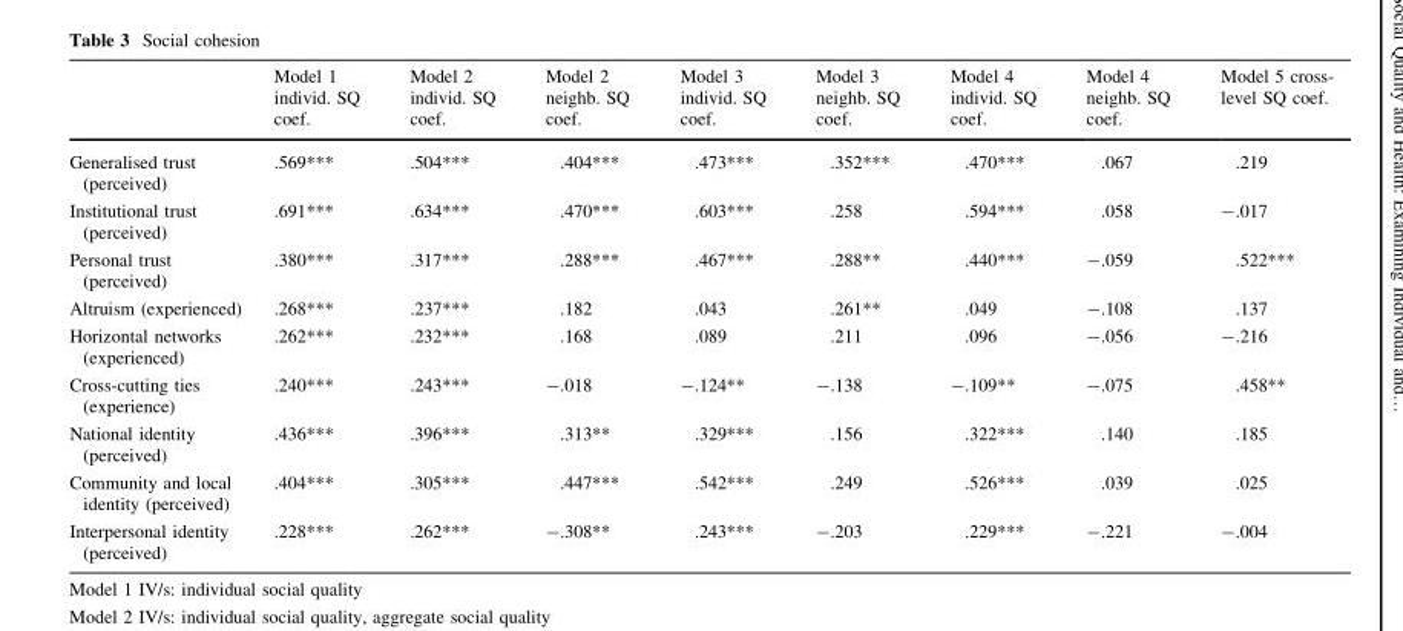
<table><thead><tr><td></td><td>Model 1 individ. SQ coef.</td><td>Model 2 individ. SQ coef.</td><td>Model 2 neighb. SQ coef.</td><td>Model 3 individ. SQ coef.</td><td>Model 3 neighb. SQ coef.</td><td>Model 4 individ. SQ coef.</td><td>Model 4 neighb. SQ coef.</td><td>Model 5 cross- level SQ coef.</td></tr></thead><tbody><tr><td>Generalised trust (perceived)</td><td>.569***</td><td>.504***</td><td>.404***</td><td>.473***</td><td>.352***</td><td>.470***</td><td>.067</td><td>.219</td></tr><tr><td>Institutional trust (perceived)</td><td>.691***</td><td>.634***</td><td>.470***</td><td>.603***</td><td>.258</td><td>.594***</td><td>.058</td><td>-.017</td></tr><tr><td>Personal trust (perceived)</td><td>.380***</td><td>.317***</td><td>.288***</td><td>.467***</td><td>.288**</td><td>.440***</td><td>-.059</td><td>.522***</td></tr><tr><td>Altruism (experienced)</td><td>.268***</td><td>.237***</td><td>.182</td><td>.043</td><td>.261**</td><td>.049</td><td>-.108</td><td>.137</td></tr><tr><td>Horizontal networks (experienced)</td><td>.262***</td><td>.232***</td><td>.168</td><td>.089</td><td>.211</td><td>.096</td><td>-.056</td><td>-.216</td></tr><tr><td>Cross-cutting ties (experience)</td><td>.240***</td><td>.243***</td><td>-.018</td><td>-.124**</td><td>-.138</td><td>-.109**</td><td>-.075</td><td>.458**</td></tr><tr><td>National identity (perceived)</td><td>.436***</td><td>.396***</td><td>.313**</td><td>.329***</td><td>.156</td><td>.322***</td><td>.140</td><td>.185</td></tr><tr><td>Community and local identity (perceived)</td><td>.404***</td><td>.305***</td><td>.447***</td><td>.542***</td><td>.249</td><td>.526***</td><td>.039</td><td>.025</td></tr><tr><td>Interpersonal identity (perceived)</td><td>.228***</td><td>.262***</td><td>-.308**</td><td>.243***</td><td>-.203</td><td>.229***</td><td>-.221</td><td>-.004</td></tr></tbody></table>